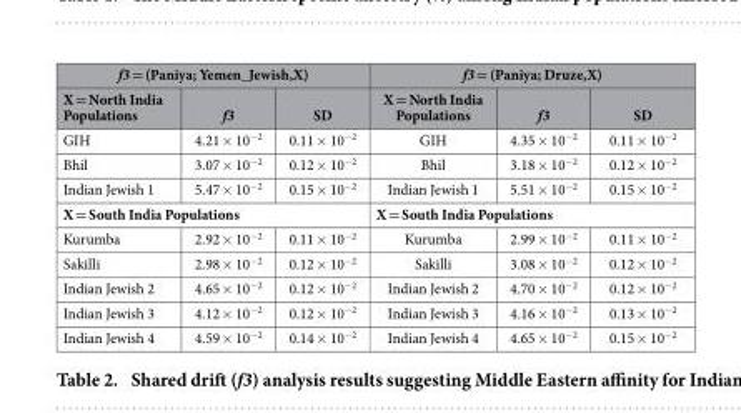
<table><thead><tr><td colspan="3">f3 = (Paniya; Yemen_Jewish,X)</td><td colspan="3">f3 = (Paniya; Druze,X)</td></tr><tr><td>X = North India Populations</td><td>f3</td><td>SD</td><td>X = North India Populations</td><td>f3</td><td>SD</td></tr></thead><tbody><tr><td>GIH</td><td>4.21 × 10<sup>−2</sup></td><td>0.11 × 10<sup>−2</sup></td><td>GIH</td><td>4.35 × 10<sup>−2</sup></td><td>0.11 × 10<sup>−2</sup></td></tr><tr><td>Bhil</td><td>3.07 × 10<sup>−2</sup></td><td>0.12 × 10<sup>−2</sup></td><td>Bhil</td><td>3.18 × 10<sup>−2</sup></td><td>0.12 × 10<sup>−2</sup></td></tr><tr><td>Indian Jewish 1</td><td>5.47 × 10<sup>−2</sup></td><td>0.15 × 10<sup>−2</sup></td><td>Indian Jewish 1</td><td>5.51 × 10<sup>−2</sup></td><td>0.15 × 10<sup>−2</sup></td></tr><tr><td colspan="3">X = South India Populations</td><td colspan="3">X = South India Populations</td></tr><tr><td>Kurumba</td><td>2.92 × 10<sup>−2</sup></td><td>0.11 × 10<sup>−2</sup></td><td>Kurumba</td><td>2.99 × 10<sup>−2</sup></td><td>0.11 × 10<sup>−2</sup></td></tr><tr><td>Sakilli</td><td>2.98 × 10<sup>−2</sup></td><td>0.12 × 10<sup>−2</sup></td><td>Sakilli</td><td>3.08 × 10<sup>−2</sup></td><td>0.12 × 10<sup>−2</sup></td></tr><tr><td>Indian Jewish 2</td><td>4.65 × 10<sup>−2</sup></td><td>0.12 × 10<sup>−2</sup></td><td>Indian Jewish 2</td><td>4.70 × 10<sup>−2</sup></td><td>0.12 × 10<sup>−2</sup></td></tr><tr><td>Indian Jewish 3</td><td>4.12 × 10<sup>−2</sup></td><td>0.12 × 10<sup>−2</sup></td><td>Indian Jewish 3</td><td>4.16 × 10<sup>−2</sup></td><td>0.13 × 10<sup>−2</sup></td></tr><tr><td>Indian Jewish 4</td><td>4.59 × 10<sup>−2</sup></td><td>0.14 × 10<sup>−2</sup></td><td>Indian Jewish 4</td><td>4.65 × 10<sup>−2</sup></td><td>0.15 × 10<sup>−2</sup></td></tr></tbody></table>